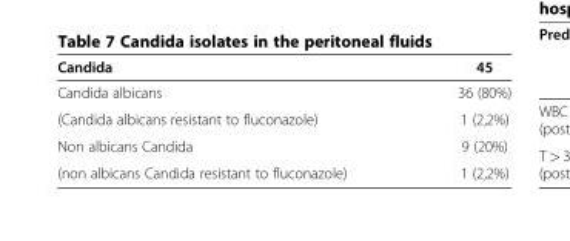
<table><thead><tr><td>Candida</td><td>45</td></tr></thead><tbody><tr><td>Candida albicans</td><td>36 (80%)</td></tr><tr><td>(Candida albicans resistant to fluconazole)</td><td>1 (2,2%)</td></tr><tr><td>Non albicans Candida</td><td>9 (20%)</td></tr><tr><td>(non albicans Candida resistant to fluconazole)</td><td>1 (2,2%)</td></tr></tbody></table>